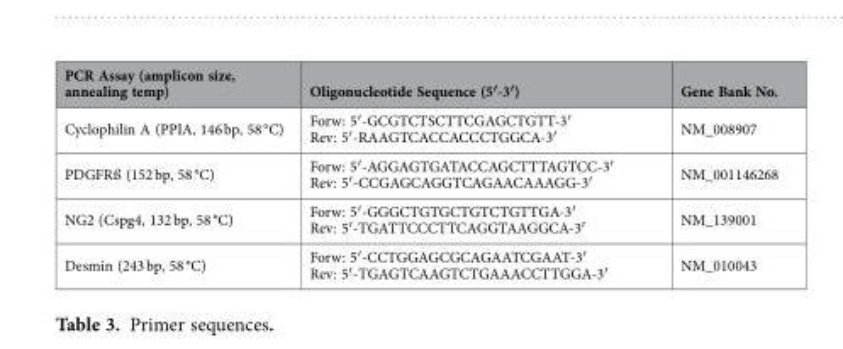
<table><thead><tr><td>PCR Assay (amplicon size, annealing temp)</td><td>Oligonucleotide Sequence (5′-3′)</td><td>Gene Bank No.</td></tr></thead><tbody><tr><td>Cyclophilin A (PPIA, 146 bp, 58 °C)</td><td>Forw: 5′ -GCGTCTSCTTCGAGCTGTT-3′ Rev: 5′ -RAAGTCACCACCCTGGCA-3′</td><td>NM_008907</td></tr><tr><td>PDGFRß (152 bp, 58 °C)</td><td>Forw: 5′ -AGGAGTGATACCAGCTTTAGTCC-3′ Rev: 5′ -CCGAGCAGGTCAGAACAAAGG-3′</td><td>NM_001146268</td></tr><tr><td>NG2 (Cspg4, 132 bp, 58 °C)</td><td>Forw: 5′ -GGGCTGTGCTGTCTGTTGA-3′ Rev: 5′ -TGATTCCCTTCAGGTAAGGCA-3′</td><td>NM_139001</td></tr><tr><td>Desmin (243 bp, 58 °C)</td><td>Forw: 5′ -CCTGGAGCGCAGAATCGAAT-3′ Rev: 5′ -TGAGTCAAGTCTGAAACCTTGGA-3′</td><td>NM_010043</td></tr></tbody></table>